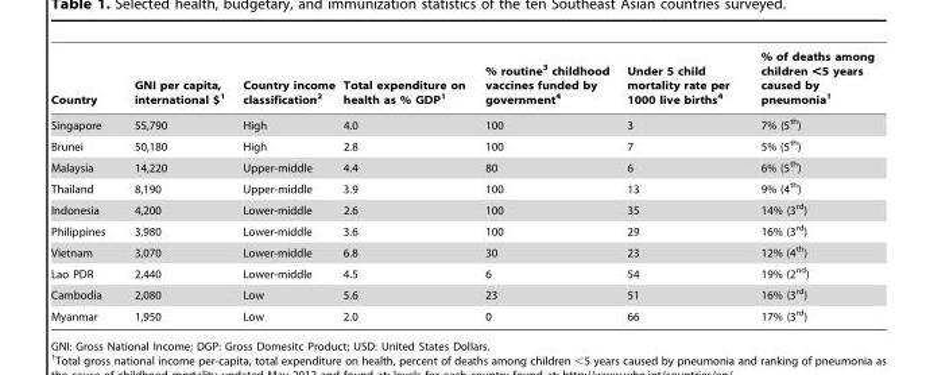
<table><thead><tr><td>Country</td><td>GNI per capita, international $<sup>1</sup></td><td>Country income classification<sup>2</sup></td><td>Total expenditure on health as % GDP<sup>1</sup></td><td>% routine<sup>3</sup> childhood vaccines funded by government<sup>4</sup></td><td>Under 5 child mortality rate per 1000 live births<sup>4</sup></td><td>% of deaths among children &lt;5 years caused by pneumonia<sup>1</sup></td></tr></thead><tbody><tr><td>Singapore</td><td>55,790</td><td>High</td><td>4.0</td><td>100</td><td>3</td><td>7% (5<sup>th</sup>)</td></tr><tr><td>Brunei</td><td>50,180</td><td>High</td><td>2.8</td><td>100</td><td>7</td><td>5% (5<sup>th</sup>)</td></tr><tr><td>Malaysia</td><td>14,220</td><td>Upper-middle</td><td>4.4</td><td>80</td><td>6</td><td>6% (5<sup>th</sup>)</td></tr><tr><td>Thailand</td><td>8,190</td><td>Upper-middle</td><td>3.9</td><td>100</td><td>13</td><td>9% (4<sup>th</sup>)</td></tr><tr><td>Indonesia</td><td>4,200</td><td>Lower-middle</td><td>2.6</td><td>100</td><td>35</td><td>14% (3<sup>rd</sup>)</td></tr><tr><td>Philippines</td><td>3,980</td><td>Lower-middle</td><td>3.6</td><td>100</td><td>29</td><td>16% (3<sup>rd</sup>)</td></tr><tr><td>Vietnam</td><td>3,070</td><td>Lower-middle</td><td>6.8</td><td>30</td><td>23</td><td>12% (4<sup>th</sup>)</td></tr><tr><td>Lao PDR</td><td>2,440</td><td>Lower-middle</td><td>4.5</td><td>6</td><td>54</td><td>19% (2<sup>nd</sup>)</td></tr><tr><td>Cambodia</td><td>2,080</td><td>Low</td><td>5.6</td><td>23</td><td>51</td><td>16% (3<sup>rd</sup>)</td></tr><tr><td>Myanmar</td><td>1,950</td><td>Low</td><td>2.0</td><td>0</td><td>66</td><td>17% (3<sup>rd</sup>)</td></tr></tbody></table>